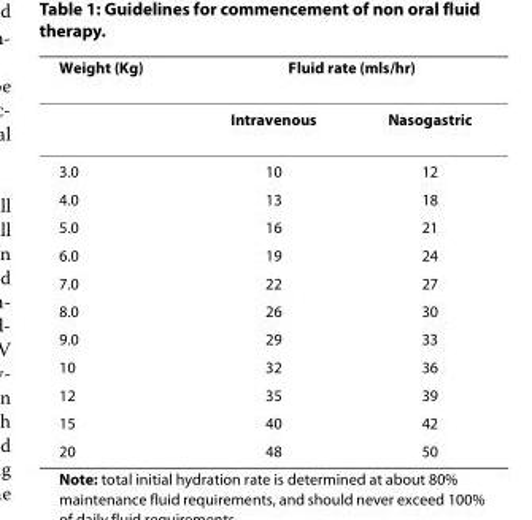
<table><thead><tr><td rowspan="2">Weight (Kg)</td><td colspan="2">Fluid rate (mls/hr)</td></tr><tr><td>Intravenous</td><td>Nasogastric</td></tr></thead><tbody><tr><td>3.0</td><td>10</td><td>12</td></tr><tr><td>4.0</td><td>13</td><td>18</td></tr><tr><td>5.0</td><td>16</td><td>21</td></tr><tr><td>6.0</td><td>19</td><td>24</td></tr><tr><td>7.0</td><td>22</td><td>27</td></tr><tr><td>8.0</td><td>26</td><td>30</td></tr><tr><td>9.0</td><td>29</td><td>33</td></tr><tr><td>10</td><td>32</td><td>36</td></tr><tr><td>12</td><td>35</td><td>39</td></tr><tr><td>15</td><td>40</td><td>42</td></tr><tr><td>20</td><td>48</td><td>50</td></tr></tbody></table>